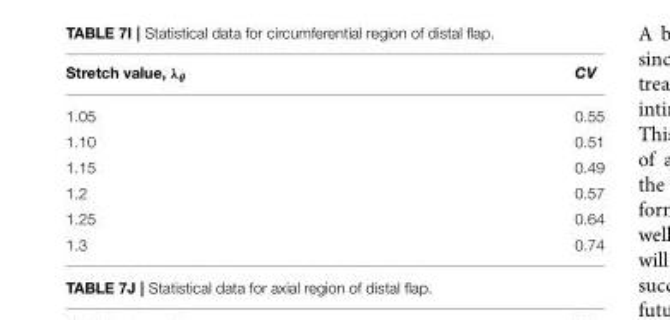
<table><thead><tr><td>Stretch value, λ<sub>θ</sub></td><td>CV</td></tr></thead><tbody><tr><td>1.05</td><td>0.55</td></tr><tr><td>1.10</td><td>0.51</td></tr><tr><td>1.15</td><td>0.49</td></tr><tr><td>1.2</td><td>0.57</td></tr><tr><td>1.25</td><td>0.64</td></tr><tr><td>1.3</td><td>0.74</td></tr></tbody></table>